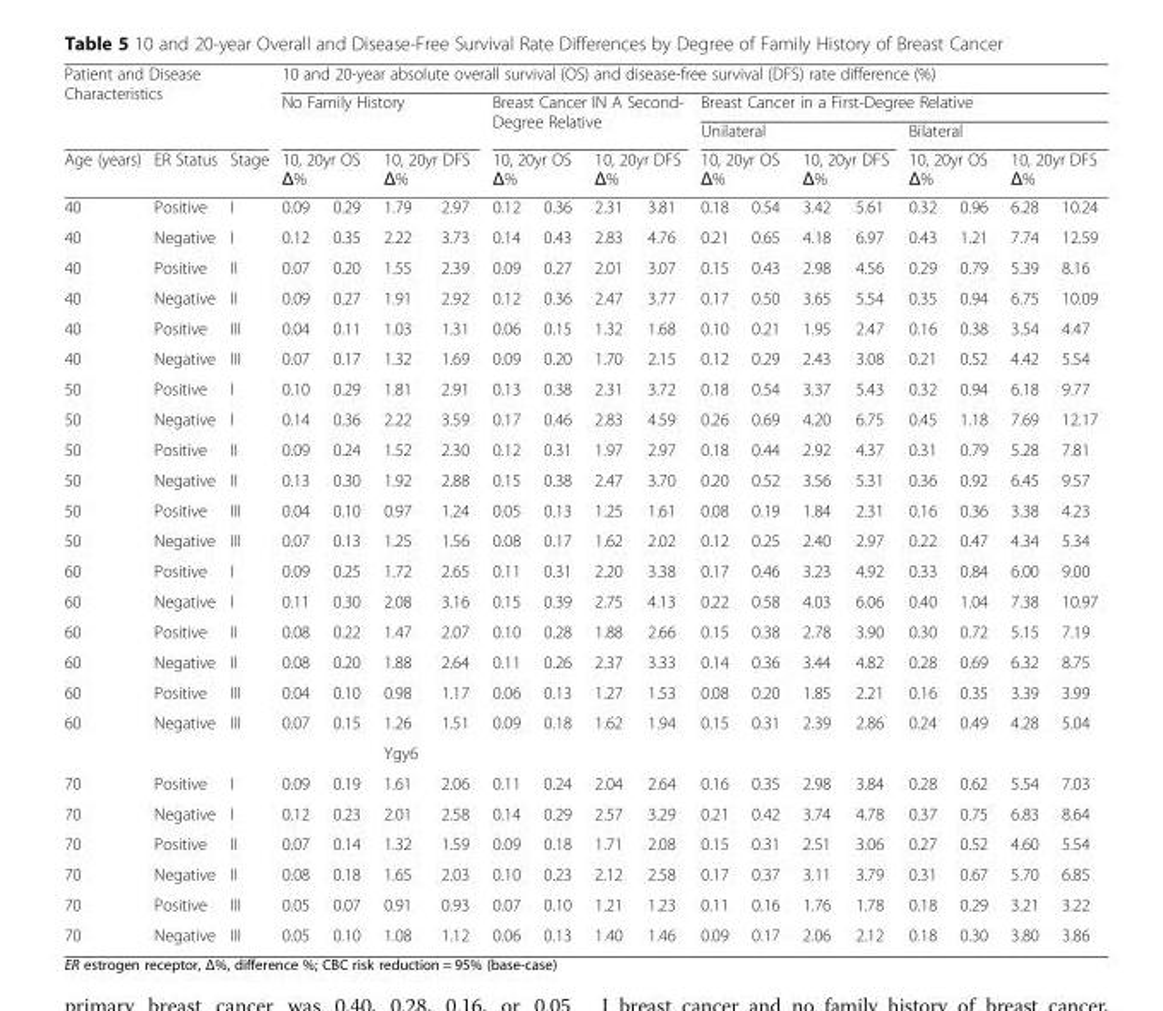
<table><thead><tr><td rowspan="3" colspan="3">Patient and Disease Characteristics</td><td colspan="16">10 and 20-year absolute overall survival (OS) and disease-free survival (DFS) rate difference (%)</td></tr><tr><td rowspan="2" colspan="4">No Family History</td><td rowspan="2" colspan="4">Breast Cancer IN A Second- Degree Relative</td><td colspan="8">Breast Cancer in a First-Degree Relative</td></tr><tr><td colspan="4">Unilateral</td><td colspan="4">Bilateral</td></tr><tr><td rowspan="2">Age (years) 40</td><td rowspan="2">ER Status Positive</td><td rowspan="2">Stage I</td><td colspan="2">10, 20yr OS Δ%</td><td colspan="2">10, 20yr DFS Δ%</td><td colspan="2">10, 20yr OS Δ%</td><td colspan="2">10, 20yr DFS Δ%</td><td colspan="2">10, 20yr OS Δ%</td><td colspan="2">10, 20yr DFS Δ%</td><td colspan="2">10, 20yr OS Δ%</td><td colspan="2">10, 20yr DFS Δ%</td></tr><tr><td>0.09</td><td>0.29</td><td>1.79</td><td>2.97</td><td>0.12</td><td>0.36</td><td>2.31</td><td>3.81</td><td>0.18</td><td>0.54</td><td>3.42</td><td>5.61</td><td>0.32</td><td>0.96</td><td>6.28</td><td>10.24</td></tr></thead><tbody><tr><td>40</td><td>Negative</td><td>I</td><td>0.12</td><td>0.35</td><td>2.22</td><td>3.73</td><td>0.14</td><td>0.43</td><td>2.83</td><td>4.76</td><td>0.21</td><td>0.65</td><td>4.18</td><td>6.97</td><td>0.43</td><td>1.21</td><td>7.74</td><td>12.59</td></tr><tr><td>40</td><td>Positive</td><td>II</td><td>0.07</td><td>0.20</td><td>1.55</td><td>2.39</td><td>0.09</td><td>0.27</td><td>2.01</td><td>3.07</td><td>0.15</td><td>0.43</td><td>2.98</td><td>4.56</td><td>0.29</td><td>0.79</td><td>5.39</td><td>8.16</td></tr><tr><td>40</td><td>Negative</td><td>II</td><td>0.09</td><td>0.27</td><td>1.91</td><td>2.92</td><td>0.12</td><td>0.36</td><td>2.47</td><td>3.77</td><td>0.17</td><td>0.50</td><td>3.65</td><td>5.54</td><td>0.35</td><td>0.94</td><td>6.75</td><td>10.09</td></tr><tr><td>40</td><td>Positive</td><td>III</td><td>0.04</td><td>0.11</td><td>1.03</td><td>1.31</td><td>0.06</td><td>0.15</td><td>1.32</td><td>1.68</td><td>0.10</td><td>0.21</td><td>1.95</td><td>2.47</td><td>0.16</td><td>0.38</td><td>3.54</td><td>4.47</td></tr><tr><td>40</td><td>Negative</td><td>III</td><td>0.07</td><td>0.17</td><td>1.32</td><td>1.69</td><td>0.09</td><td>0.20</td><td>1.70</td><td>2.15</td><td>0.12</td><td>0.29</td><td>2.43</td><td>3.08</td><td>0.21</td><td>0.52</td><td>4.42</td><td>5.54</td></tr><tr><td>50</td><td>Positive</td><td>I</td><td>0.10</td><td>0.29</td><td>1.81</td><td>2.91</td><td>0.13</td><td>0.38</td><td>2.31</td><td>3.72</td><td>0.18</td><td>0.54</td><td>3.37</td><td>5.43</td><td>0.32</td><td>0.94</td><td>6.18</td><td>9.77</td></tr><tr><td>50</td><td>Negative</td><td>I</td><td>0.14</td><td>0.36</td><td>2.22</td><td>3.59</td><td>0.17</td><td>0.46</td><td>2.83</td><td>4.59</td><td>0.26</td><td>0.69</td><td>4.20</td><td>6.75</td><td>0.45</td><td>1.18</td><td>7.69</td><td>12.17</td></tr><tr><td>50</td><td>Positive</td><td>II</td><td>0.09</td><td>0.24</td><td>1.52</td><td>2.30</td><td>0.12</td><td>0.31</td><td>1.97</td><td>2.97</td><td>0.18</td><td>0.44</td><td>2.92</td><td>4.37</td><td>0.31</td><td>0.79</td><td>5.28</td><td>7.81</td></tr><tr><td>50</td><td>Negative</td><td>II</td><td>0.13</td><td>0.30</td><td>1.92</td><td>2.88</td><td>0.15</td><td>0.38</td><td>2.47</td><td>3.70</td><td>0.20</td><td>0.52</td><td>3.56</td><td>5.31</td><td>0.36</td><td>0.92</td><td>6.45</td><td>9.57</td></tr><tr><td>50</td><td>Positive</td><td>III</td><td>0.04</td><td>0.10</td><td>0.97</td><td>1.24</td><td>0.05</td><td>0.13</td><td>1.25</td><td>1.61</td><td>0.08</td><td>0.19</td><td>1.84</td><td>2.31</td><td>0.16</td><td>0.36</td><td>3.38</td><td>4.23</td></tr><tr><td>50</td><td>Negative</td><td>III</td><td>0.07</td><td>0.13</td><td>1.25</td><td>1.56</td><td>0.08</td><td>0.17</td><td>1.62</td><td>2.02</td><td>0.12</td><td>0.25</td><td>2.40</td><td>2.97</td><td>0.22</td><td>0.47</td><td>4.34</td><td>5.34</td></tr><tr><td>60</td><td>Positive</td><td>I</td><td>0.09</td><td>0.25</td><td>1.72</td><td>2.65</td><td>0.11</td><td>0.31</td><td>2.20</td><td>3.38</td><td>0.17</td><td>0.46</td><td>3.23</td><td>4.92</td><td>0.33</td><td>0.84</td><td>6.00</td><td>9.00</td></tr><tr><td>60</td><td>Negative</td><td>I</td><td>0.11</td><td>0.30</td><td>2.08</td><td>3.16</td><td>0.15</td><td>0.39</td><td>2.75</td><td>4.13</td><td>0.22</td><td>0.58</td><td>4.03</td><td>6.06</td><td>0.40</td><td>1.04</td><td>7.38</td><td>10.97</td></tr><tr><td>60</td><td>Positive</td><td>II</td><td>0.08</td><td>0.22</td><td>1.47</td><td>2.07</td><td>0.10</td><td>0.28</td><td>1.88</td><td>2.66</td><td>0.15</td><td>0.38</td><td>2.78</td><td>3.90</td><td>0.30</td><td>0.72</td><td>5.15</td><td>7.19</td></tr><tr><td>60</td><td>Negative</td><td>II</td><td>0.08</td><td>0.20</td><td>1.88</td><td>2.64</td><td>0.11</td><td>0.26</td><td>2.37</td><td>3.33</td><td>0.14</td><td>0.36</td><td>3.44</td><td>4.82</td><td>0.28</td><td>0.69</td><td>6.32</td><td>8.75</td></tr><tr><td>60</td><td>Positive</td><td>III</td><td>0.04</td><td>0.10</td><td>0.98</td><td>1.17</td><td>0.06</td><td>0.13</td><td>1.27</td><td>1.53</td><td>0.08</td><td>0.20</td><td>1.85</td><td>2.21</td><td>0.16</td><td>0.35</td><td>3.39</td><td>3.99</td></tr><tr><td rowspan="2">60</td><td>Negative</td><td>III</td><td>0.07</td><td>0.15</td><td>1.26</td><td>1.51</td><td>0.09</td><td>0.18</td><td>1.62</td><td>1.94</td><td>0.15</td><td>0.31</td><td>2.39</td><td>2.86</td><td>0.24</td><td>0.49</td><td>4.28</td><td>5.04</td></tr><tr><td></td><td></td><td></td><td></td><td>Ygy6</td><td></td><td></td><td></td><td></td><td></td><td></td><td></td><td></td><td></td><td></td><td></td><td></td><td></td></tr><tr><td>70</td><td>Positive</td><td>I</td><td>0.09</td><td>0.19</td><td>1.61</td><td>2.06</td><td>0.11</td><td>0.24</td><td>2.04</td><td>2.64</td><td>0.16</td><td>0.35</td><td>2.98</td><td>3.84</td><td>0.28</td><td>0.62</td><td>5.54</td><td>7.03</td></tr><tr><td>70</td><td>Negative</td><td>I</td><td>0.12</td><td>0.23</td><td>2.01</td><td>2.58</td><td>0.14</td><td>0.29</td><td>2.57</td><td>3.29</td><td>0.21</td><td>0.42</td><td>3.74</td><td>4.78</td><td>0.37</td><td>0.75</td><td>6.83</td><td>8.64</td></tr><tr><td>70</td><td>Positive</td><td>II</td><td>0.07</td><td>0.14</td><td>1.32</td><td>1.59</td><td>0.09</td><td>0.18</td><td>1.71</td><td>2.08</td><td>0.15</td><td>0.31</td><td>2.51</td><td>3.06</td><td>0.27</td><td>0.52</td><td>4.60</td><td>5.54</td></tr><tr><td>70</td><td>Negative</td><td>II</td><td>0.08</td><td>0.18</td><td>1.65</td><td>2.03</td><td>0.10</td><td>0.23</td><td>2.12</td><td>2.58</td><td>0.17</td><td>0.37</td><td>3.11</td><td>3.79</td><td>0.31</td><td>0.67</td><td>5.70</td><td>6.85</td></tr><tr><td>70</td><td>Positive</td><td>III</td><td>0.05</td><td>0.07</td><td>0.91</td><td>0.93</td><td>0.07</td><td>0.10</td><td>1.21</td><td>1.23</td><td>0.11</td><td>0.16</td><td>1.76</td><td>1.78</td><td>0.18</td><td>0.29</td><td>3.21</td><td>3.22</td></tr><tr><td>70</td><td>Negative</td><td>III</td><td>0.05</td><td>0.10</td><td>1.08</td><td>1.12</td><td>0.06</td><td>0.13</td><td>1.40</td><td>1.46</td><td>0.09</td><td>0.17</td><td>2.06</td><td>2.12</td><td>0.18</td><td>0.30</td><td>3.80</td><td>3.86</td></tr></tbody></table>